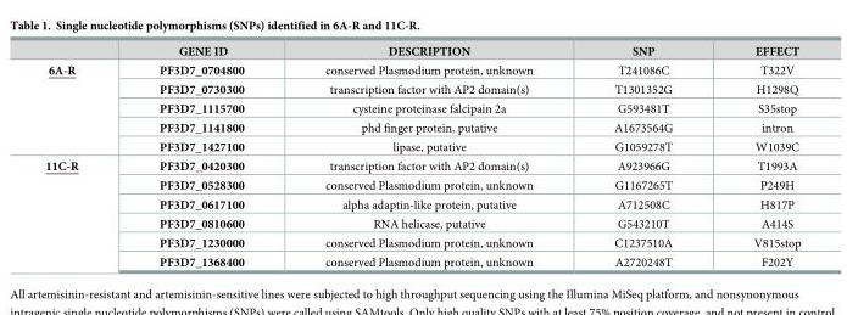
<table><thead><tr><td></td><td>GENE ID</td><td>DESCRIPTION</td><td>SNP</td><td>EFFECT</td></tr></thead><tbody><tr><td rowspan="5">6A-R</td><td>PF3D7_0704800</td><td>conserved Plasmodium protein, unknown</td><td>T241086C</td><td>T322V</td></tr><tr><td>PF3D7_0730300</td><td>transcription factor with AP2 domain(s)</td><td>T1301352G</td><td>H1298Q</td></tr><tr><td>PF3D7_1115700</td><td>cysteine proteinase falcipain 2a</td><td>G593481T</td><td>S35stop</td></tr><tr><td>PF3D7_1141800</td><td>phd finger protein, putative</td><td>A1673564G</td><td>intron</td></tr><tr><td>PF3D7_1427100</td><td>lipase, putative</td><td>G1059278T</td><td>W1039C</td></tr><tr><td rowspan="6">11C-R</td><td>PF3D7_0420300</td><td>transcription factor with AP2 domain(s)</td><td>A923966G</td><td>T1993A</td></tr><tr><td>PF3D7_0528300</td><td>conserved Plasmodium protein, unknown</td><td>G1167265T</td><td>P249H</td></tr><tr><td>PF3D7_0617100</td><td>alpha adaptin-like protein, putative</td><td>A712508C</td><td>H817P</td></tr><tr><td>PF3D7_0810600</td><td>RNA helicase, putative</td><td>G543210T</td><td>A414S</td></tr><tr><td>PF3D7_1230000</td><td>conserved Plasmodium protein, unknown</td><td>C1237510A</td><td>V815stop</td></tr><tr><td>PF3D7_1368400</td><td>conserved Plasmodium protein, unknown</td><td>A2720248T</td><td>F202Y</td></tr></tbody></table>